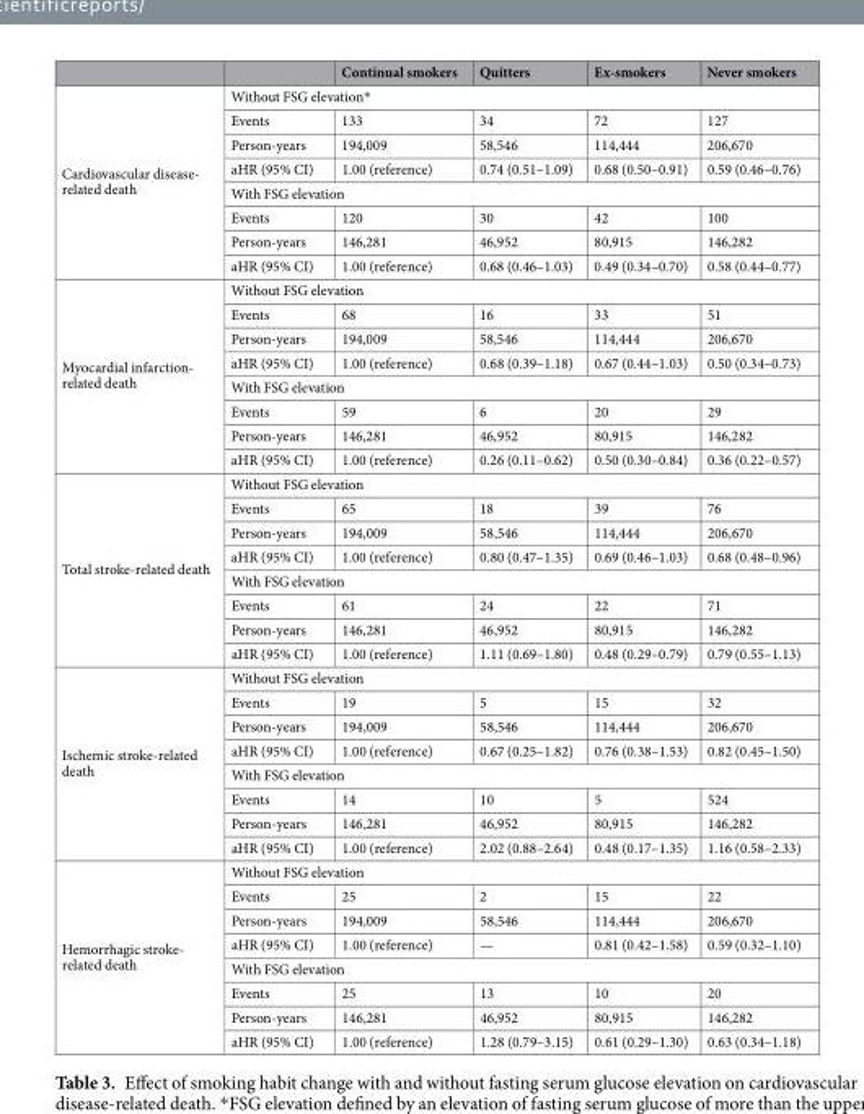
<table><thead><tr><td></td><td></td><td>Continual smokers</td><td>Quitters</td><td>Ex-smokers</td><td>Never smokers</td></tr></thead><tbody><tr><td rowspan="8">Cardiovascular disease- related death</td><td colspan="5">Without FSG elevation*</td></tr><tr><td>Events</td><td>133</td><td>34</td><td>72</td><td>127</td></tr><tr><td>Person-years</td><td>194,009</td><td>58,546</td><td>114,444</td><td>206,670</td></tr><tr><td>aHR (95% CI)</td><td>1.00 (reference)</td><td>0.74 (0.51–1.09)</td><td>0.68 (0.50–0.91)</td><td>0.59 (0.46–0.76)</td></tr><tr><td colspan="5">With FSG elevation</td></tr><tr><td>Events</td><td>120</td><td>30</td><td>42</td><td>100</td></tr><tr><td>Person-years</td><td>146,281</td><td>46,952</td><td>80,915</td><td>146,282</td></tr><tr><td>aHR (95% CI)</td><td>1.00 (reference)</td><td>0.68 (0.46–1.03)</td><td>0.49 (0.34–0.70)</td><td>0.58 (0.44–0.77)</td></tr><tr><td rowspan="8">Myocardial infarction- related death</td><td colspan="5">Without FSG elevation</td></tr><tr><td>Events</td><td>68</td><td>16</td><td>33</td><td>51</td></tr><tr><td>Person-years</td><td>194,009</td><td>58,546</td><td>114,444</td><td>206,670</td></tr><tr><td>aHR (95% CI)</td><td>1.00 (reference)</td><td>0.68 (0.39–1.18)</td><td>0.67 (0.44–1.03)</td><td>0.50 (0.34–0.73)</td></tr><tr><td colspan="5">With FSG elevation</td></tr><tr><td>Events</td><td>59</td><td>6</td><td>20</td><td>29</td></tr><tr><td>Person-years</td><td>146,281</td><td>46,952</td><td>80,915</td><td>146,282</td></tr><tr><td>aHR (95% CI)</td><td>1.00 (reference)</td><td>0.26 (0.11–0.62)</td><td>0.50 (0.30–0.84)</td><td>0.36 (0.22–0.57)</td></tr><tr><td rowspan="8">Total stroke-related death</td><td colspan="5">Without FSG elevation</td></tr><tr><td>Events</td><td>65</td><td>18</td><td>39</td><td>76</td></tr><tr><td>Person-years</td><td>194,009</td><td>58,546</td><td>114,444</td><td>206,670</td></tr><tr><td>aHR (95% CI)</td><td>1.00 (reference)</td><td>0.80 (0.47–1.35)</td><td>0.69 (0.46–1.03)</td><td>0.68 (0.48–0.96)</td></tr><tr><td colspan="5">With FSG elevation</td></tr><tr><td>Events</td><td>61</td><td>24</td><td>22</td><td>71</td></tr><tr><td>Person-years</td><td>146,281</td><td>46,952</td><td>80,915</td><td>146,282</td></tr><tr><td>aHR (95% CI)</td><td>1.00 (reference)</td><td>1.11 (0.69–1.80)</td><td>0.48 (0.29–0.79)</td><td>0.79 (0.55–1.13)</td></tr><tr><td rowspan="8">Ischemic stroke-related death</td><td colspan="5">Without FSG elevation</td></tr><tr><td>Events</td><td>19</td><td>5</td><td>15</td><td>32</td></tr><tr><td>Person-years</td><td>194,009</td><td>58,546</td><td>114,444</td><td>206,670</td></tr><tr><td>aHR (95% CI)</td><td>1.00 (reference)</td><td>0.67 (0.25–1.82)</td><td>0.76 (0.38–1.53)</td><td>0.82 (0.45–1.50)</td></tr><tr><td colspan="5">With FSG elevation</td></tr><tr><td>Events</td><td>14</td><td>10</td><td>5</td><td>524</td></tr><tr><td>Person-years</td><td>146,281</td><td>46,952</td><td>80,915</td><td>146,282</td></tr><tr><td>aHR (95% CI)</td><td>1.00 (reference)</td><td>2.02 (0.88–2.64)</td><td>0.48 (0.17–1.35)</td><td>1.16 (0.58–2.33)</td></tr><tr><td rowspan="8">Hemorrhagic stroke- related death</td><td colspan="5">Without FSG elevation</td></tr><tr><td>Events</td><td>25</td><td>2</td><td>15</td><td>22</td></tr><tr><td>Person-years</td><td>194,009</td><td>58,546</td><td>114,444</td><td>206,670</td></tr><tr><td>aHR (95% CI)</td><td>1.00 (reference)</td><td>—</td><td>0.81 (0.42–1.58)</td><td>0.59 (0.32–1.10)</td></tr><tr><td colspan="5">With FSG elevation</td></tr><tr><td>Events</td><td>25</td><td>13</td><td>10</td><td>20</td></tr><tr><td>Person-years</td><td>146,281</td><td>46,952</td><td>80,915</td><td>146,282</td></tr><tr><td>aHR (95% CI)</td><td>1.00 (reference)</td><td>1.28 (0.79–3.15)</td><td>0.61 (0.29–1.30)</td><td>0.63 (0.34–1.18)</td></tr></tbody></table>